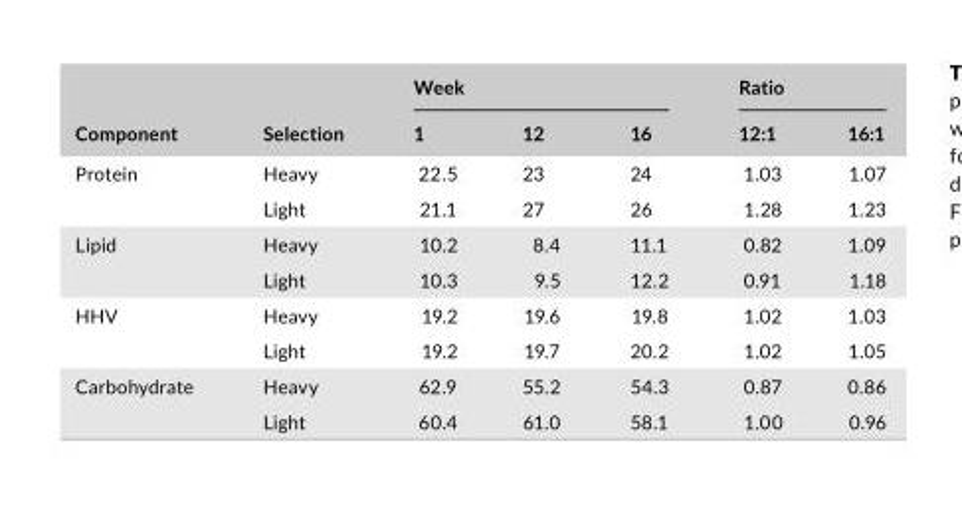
<table><thead><tr><td rowspan="2">Component</td><td rowspan="2">Selection</td><td colspan="3">Week</td><td colspan="2">Ratio</td></tr><tr><td>1</td><td>12</td><td>16</td><td>12:1</td><td>16:1</td></tr></thead><tbody><tr><td rowspan="2">Protein</td><td>Heavy</td><td>22.5</td><td>23</td><td>24</td><td>1.03</td><td>1.07</td></tr><tr><td>Light</td><td>21.1</td><td>27</td><td>26</td><td>1.28</td><td>1.23</td></tr><tr><td rowspan="2">Lipid</td><td>Heavy</td><td>10.2</td><td>8.4</td><td>11.1</td><td>0.82</td><td>1.09</td></tr><tr><td>Light</td><td>10.3</td><td>9.5</td><td>12.2</td><td>0.91</td><td>1.18</td></tr><tr><td rowspan="2">HHV</td><td>Heavy</td><td>19.2</td><td>19.6</td><td>19.8</td><td>1.02</td><td>1.03</td></tr><tr><td>Light</td><td>19.2</td><td>19.7</td><td>20.2</td><td>1.02</td><td>1.05</td></tr><tr><td rowspan="2">Carbohydrate</td><td>Heavy</td><td>62.9</td><td>55.2</td><td>54.3</td><td>0.87</td><td>0.86</td></tr><tr><td>Light</td><td>60.4</td><td>61.0</td><td>58.1</td><td>1.00</td><td>0.96</td></tr></tbody></table>